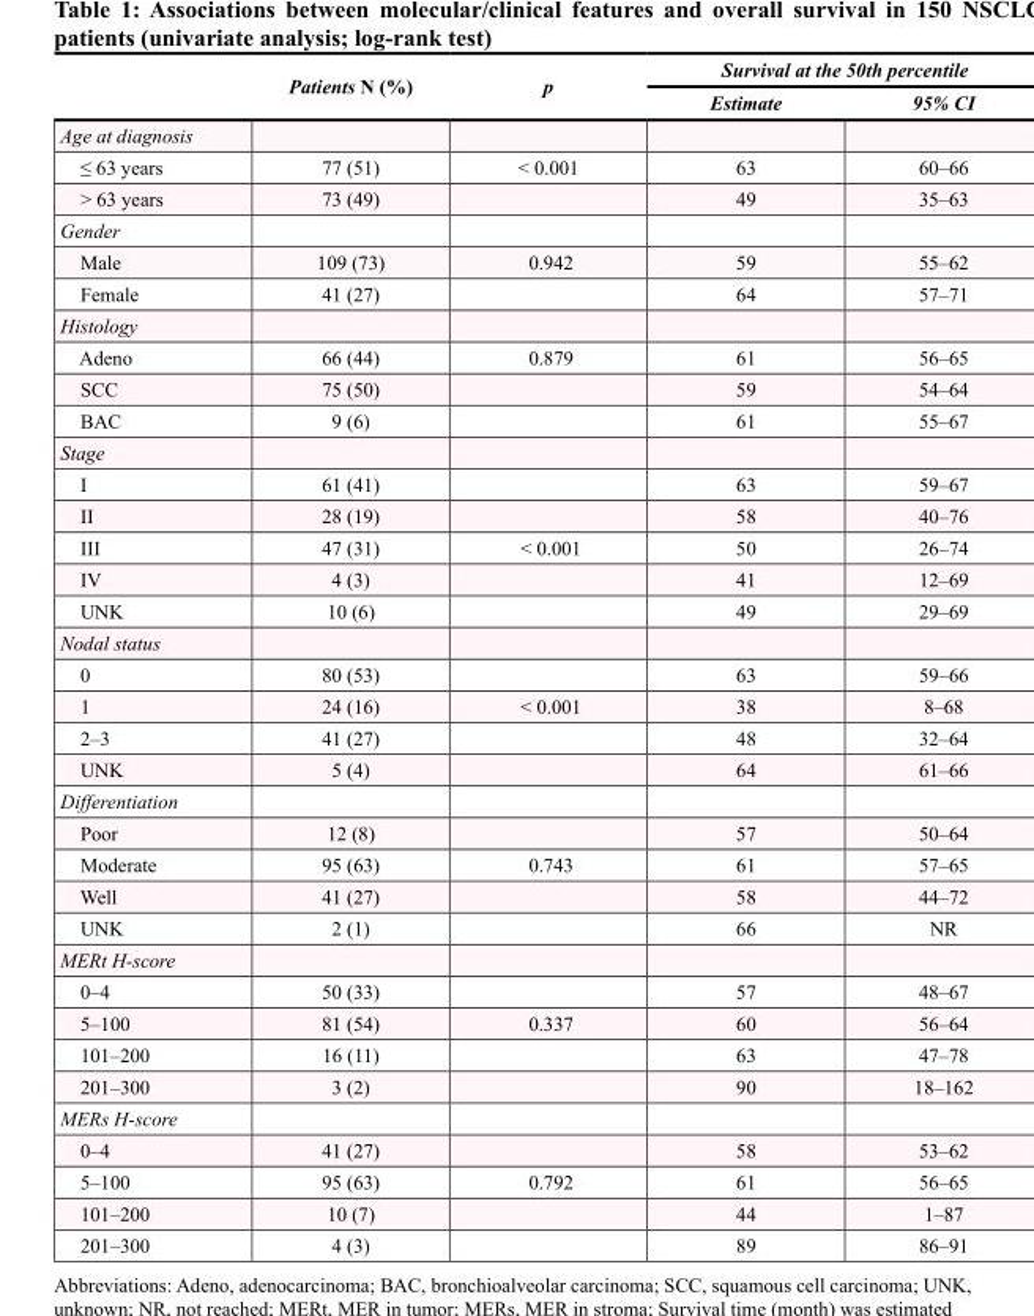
<table><thead><tr><td rowspan="2"></td><td rowspan="2">Patients N (%)</td><td rowspan="2">p</td><td colspan="2">Survival at the 50th percentile</td></tr><tr><td>Estimate</td><td>95% CI</td></tr></thead><tbody><tr><td colspan="5">Age at diagnosis</td></tr><tr><td>≤ 63 years</td><td>77 (51)</td><td>&lt; 0.001</td><td>63</td><td>60–66</td></tr><tr><td>&gt; 63 years</td><td>73 (49)</td><td></td><td>49</td><td>35–63</td></tr><tr><td colspan="5">Gender</td></tr><tr><td>Male</td><td>109 (73)</td><td>0.942</td><td>59</td><td>55–62</td></tr><tr><td>Female</td><td>41 (27)</td><td></td><td>64</td><td>57–71</td></tr><tr><td colspan="5">Histology</td></tr><tr><td>Adeno</td><td>66 (44)</td><td>0.879</td><td>61</td><td>56–65</td></tr><tr><td>SCC</td><td>75 (50)</td><td></td><td>59</td><td>54–64</td></tr><tr><td>BAC</td><td>9 (6)</td><td></td><td>61</td><td>55–67</td></tr><tr><td colspan="5">Stage</td></tr><tr><td>I</td><td>61 (41)</td><td></td><td>63</td><td>59–67</td></tr><tr><td>II</td><td>28 (19)</td><td></td><td>58</td><td>40–76</td></tr><tr><td>III</td><td>47 (31)</td><td>&lt; 0.001</td><td>50</td><td>26–74</td></tr><tr><td>IV</td><td>4 (3)</td><td></td><td>41</td><td>12–69</td></tr><tr><td>UNK</td><td>10 (6)</td><td></td><td>49</td><td>29–69</td></tr><tr><td colspan="5">Nodal status</td></tr><tr><td>0</td><td>80 (53)</td><td></td><td>63</td><td>59–66</td></tr><tr><td>1</td><td>24 (16)</td><td>&lt; 0.001</td><td>38</td><td>8–68</td></tr><tr><td>2–3</td><td>41 (27)</td><td></td><td>48</td><td>32–64</td></tr><tr><td>UNK</td><td>5 (4)</td><td></td><td>64</td><td>61–66</td></tr><tr><td colspan="5">Differentiation</td></tr><tr><td>Poor</td><td>12 (8)</td><td></td><td>57</td><td>50–64</td></tr><tr><td>Moderate</td><td>95 (63)</td><td>0.743</td><td>61</td><td>57–65</td></tr><tr><td>Well</td><td>41 (27)</td><td></td><td>58</td><td>44–72</td></tr><tr><td>UNK</td><td>2 (1)</td><td></td><td>66</td><td>NR</td></tr><tr><td colspan="5">MERt H-score</td></tr><tr><td>0–4</td><td>50 (33)</td><td></td><td>57</td><td>48–67</td></tr><tr><td>5–100</td><td>81 (54)</td><td>0.337</td><td>60</td><td>56–64</td></tr><tr><td>101–200</td><td>16 (11)</td><td></td><td>63</td><td>47–78</td></tr><tr><td>201–300</td><td>3 (2)</td><td></td><td>90</td><td>18–162</td></tr><tr><td colspan="5">MERs H-score</td></tr><tr><td>0–4</td><td>41 (27)</td><td></td><td>58</td><td>53–62</td></tr><tr><td>5–100</td><td>95 (63)</td><td>0.792</td><td>61</td><td>56–65</td></tr><tr><td>101–200</td><td>10 (7)</td><td></td><td>44</td><td>1–87</td></tr><tr><td>201–300</td><td>4 (3)</td><td></td><td>89</td><td>86–91</td></tr></tbody></table>